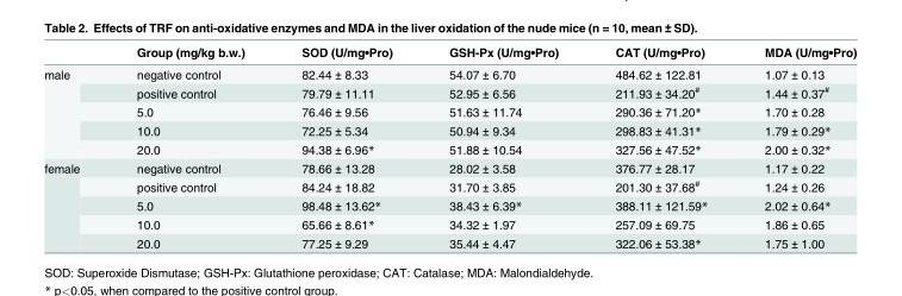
<table><thead><tr><td></td><td>Group (mg/kg b.w.)</td><td>SOD (U/mg•Pro)</td><td>GSH-Px (U/mg•Pro)</td><td>CAT (U/mg•Pro)</td><td>MDA (U/mg•Pro)</td></tr></thead><tbody><tr><td rowspan="5">male</td><td>negative control</td><td>82.44 ± 8.33</td><td>54.07 ± 6.70</td><td>484.62 ± 122.81</td><td>1.07 ± 0.13</td></tr><tr><td>positive control</td><td>79.79 ± 11.11</td><td>52.95 ± 6.56</td><td>211.93 ± 34.20<sup>#</sup></td><td>1.44 ± 0.37<sup>#</sup></td></tr><tr><td>5.0</td><td>76.46 ± 9.56</td><td>51.63 ± 11.74</td><td>290.36 ± 71.20*</td><td>1.70 ± 0.28</td></tr><tr><td>10.0</td><td>72.25 ± 5.34</td><td>50.94 ± 9.34</td><td>298.83 ± 41.31*</td><td>1.79 ± 0.29*</td></tr><tr><td>20.0</td><td>94.38 ± 6.96*</td><td>51.88 ± 10.54</td><td>327.56 ± 47.52*</td><td>2.00 ± 0.32*</td></tr><tr><td rowspan="5">female</td><td>negative control</td><td>78.66 ± 13.28</td><td>28.02 ± 3.58</td><td>376.77 ± 28.17</td><td>1.17 ± 0.22</td></tr><tr><td>positive control</td><td>84.24 ± 18.82</td><td>31.70 ± 3.85</td><td>201.30 ± 37.68<sup>#</sup></td><td>1.24 ± 0.26</td></tr><tr><td>5.0</td><td>98.48 ± 13.62*</td><td>38.43 ± 6.39*</td><td>388.11 ± 121.59*</td><td>2.02 ± 0.64*</td></tr><tr><td>10.0</td><td>65.66 ± 8.61*</td><td>34.32 ± 1.97</td><td>257.09 ± 69.75</td><td>1.86 ± 0.65</td></tr><tr><td>20.0</td><td>77.25 ± 9.29</td><td>35.44 ± 4.47</td><td>322.06 ± 53.38*</td><td>1.75 ± 1.00</td></tr></tbody></table>